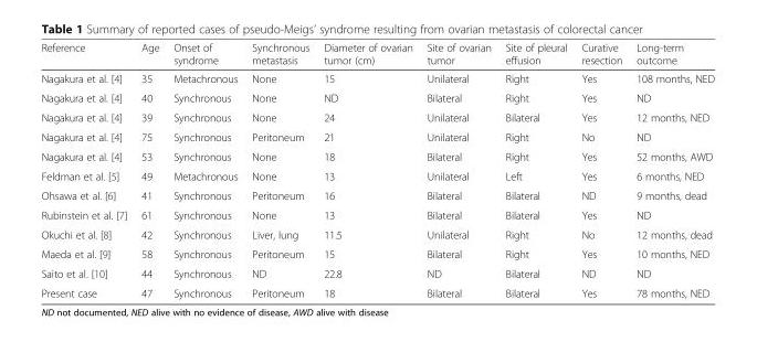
<table><thead><tr><td>Reference</td><td>Age</td><td>Onset of syndrome</td><td>Synchronous metastasis</td><td>Diameter of ovarian tumor (cm)</td><td>Site of ovarian tumor</td><td>Site of pleural effusion</td><td>Curative resection</td><td>Long-term outcome</td></tr></thead><tbody><tr><td>Nagakura et al. [4]</td><td>35</td><td>Metachronous</td><td>None</td><td>15</td><td>Unilateral</td><td>Right</td><td>Yes</td><td>108 months, NED</td></tr><tr><td>Nagakura et al. [4]</td><td>40</td><td>Synchronous</td><td>None</td><td>ND</td><td>Bilateral</td><td>Right</td><td>Yes</td><td>ND</td></tr><tr><td>Nagakura et al. [4]</td><td>39</td><td>Synchronous</td><td>None</td><td>24</td><td>Unilateral</td><td>Bilateral</td><td>Yes</td><td>12 months, NED</td></tr><tr><td>Nagakura et al. [4]</td><td>75</td><td>Synchronous</td><td>Peritoneum</td><td>21</td><td>Unilateral</td><td>Right</td><td>No</td><td>ND</td></tr><tr><td>Nagakura et al. [4]</td><td>53</td><td>Synchronous</td><td>None</td><td>18</td><td>Bilateral</td><td>Right</td><td>Yes</td><td>52 months, AWD</td></tr><tr><td>Feldman et al. [5]</td><td>49</td><td>Metachronous</td><td>None</td><td>13</td><td>Unilateral</td><td>Left</td><td>Yes</td><td>6 months, NED</td></tr><tr><td>Ohsawa et al. [6]</td><td>41</td><td>Synchronous</td><td>Peritoneum</td><td>16</td><td>Bilateral</td><td>Bilateral</td><td>ND</td><td>9 months, dead</td></tr><tr><td>Rubinstein et al. [7]</td><td>61</td><td>Synchronous</td><td>None</td><td>13</td><td>Bilateral</td><td>Bilateral</td><td>Yes</td><td>ND</td></tr><tr><td>Okuchi et al. [8]</td><td>42</td><td>Synchronous</td><td>Liver, lung</td><td>11.5</td><td>Unilateral</td><td>Right</td><td>No</td><td>12 months, dead</td></tr><tr><td>Maeda et al. [9]</td><td>58</td><td>Synchronous</td><td>Peritoneum</td><td>15</td><td>Bilateral</td><td>Right</td><td>Yes</td><td>10 months, NED</td></tr><tr><td>Saito et al. [10]</td><td>44</td><td>Synchronous</td><td>ND</td><td>22.8</td><td>ND</td><td>Bilateral</td><td>ND</td><td>ND</td></tr><tr><td>Present case</td><td>47</td><td>Synchronous</td><td>Peritoneum</td><td>18</td><td>Bilateral</td><td>Bilateral</td><td>Yes</td><td>78 months, NED</td></tr></tbody></table>